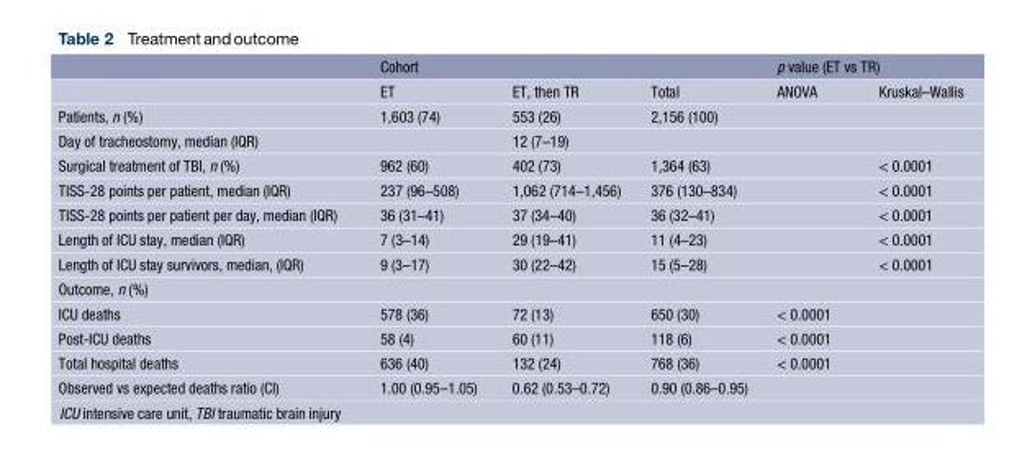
<table><thead><tr><td rowspan="2"></td><td colspan="3">Cohort</td><td colspan="2">p value (ET vs TR)</td></tr><tr><td>ET</td><td>ET, then TR</td><td>Total</td><td>ANOVA</td><td>Kruskal–Wallis</td></tr></thead><tbody><tr><td>Patients, n (%)</td><td>1,603 (74)</td><td>553 (26)</td><td>2,156 (100)</td><td></td><td></td></tr><tr><td>Day of tracheostomy, median (IQR)</td><td></td><td>12 (7–19)</td><td></td><td></td><td></td></tr><tr><td>Surgical treatment of TBI, n (%)</td><td>962 (60)</td><td>402 (73)</td><td>1,364 (63)</td><td></td><td>&lt; 0.0001</td></tr><tr><td>TISS-28 points per patient, median (IQR)</td><td>237 (96–508)</td><td>1,062 (714–1,456)</td><td>376 (130–834)</td><td></td><td>&lt; 0.0001</td></tr><tr><td>TISS-28 points per patient per day, median (IQR)</td><td>36 (31–41)</td><td>37 (34–40)</td><td>36 (32–41)</td><td></td><td>&lt; 0.0001</td></tr><tr><td>Length of ICU stay, median (IQR)</td><td>7 (3–14)</td><td>29 (19–41)</td><td>11 (4–23)</td><td></td><td>&lt; 0.0001</td></tr><tr><td>Length of ICU stay survivors, median, (IQR)</td><td>9 (3–17)</td><td>30 (22–42)</td><td>15 (5–28)</td><td></td><td>&lt; 0.0001</td></tr><tr><td colspan="6">Outcome, n (%)</td></tr><tr><td>ICU deaths</td><td>578 (36)</td><td>72 (13)</td><td>650 (30)</td><td>&lt; 0.0001</td><td></td></tr><tr><td>Post-ICU deaths</td><td>58 (4)</td><td>60 (11)</td><td>118 (6)</td><td>&lt; 0.0001</td><td></td></tr><tr><td>Total hospital deaths</td><td>636 (40)</td><td>132 (24)</td><td>768 (36)</td><td>&lt; 0.0001</td><td></td></tr><tr><td>Observed vs expected deaths ratio (CI)</td><td>1.00 (0.95–1.05)</td><td>0.62 (0.53–0.72)</td><td>0.90 (0.86–0.95)</td><td></td><td></td></tr></tbody></table>